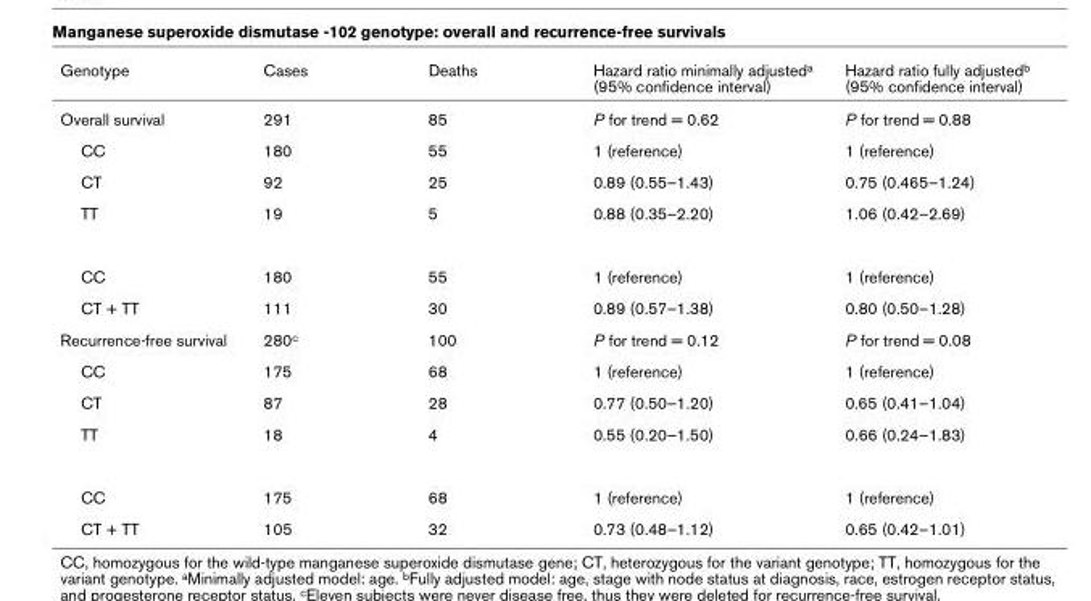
<table><thead><tr><td>Genotype</td><td>Cases</td><td>Deaths</td><td>Hazard ratio minimally adjusteda (95% confidence interval)</td><td>Hazard ratio fully adjustedb (95% confidence interval)</td></tr></thead><tbody><tr><td>Overall survival</td><td>291</td><td>85</td><td>P for trend = 0.62</td><td>P for trend = 0.88</td></tr><tr><td>CC</td><td>180</td><td>55</td><td>1 (reference)</td><td>1 (reference)</td></tr><tr><td>CT</td><td>92</td><td>25</td><td>0.89 (0.55–1.43)</td><td>0.75 (0.465–1.24)</td></tr><tr><td>TT</td><td>19</td><td>5</td><td>0.88 (0.35–2.20)</td><td>1.06 (0.42–2.69)</td></tr><tr><td>CC</td><td>180</td><td>55</td><td>1 (reference)</td><td>1 (reference)</td></tr><tr><td>CT + TT</td><td>111</td><td>30</td><td>0.89 (0.57–1.38)</td><td>0.80 (0.50–1.28)</td></tr><tr><td>Recurrence-free survival</td><td>280c</td><td>100</td><td>P for trend = 0.12</td><td>P for trend = 0.08</td></tr><tr><td>CC</td><td>175</td><td>68</td><td>1 (reference)</td><td>1 (reference)</td></tr><tr><td>CT</td><td>87</td><td>28</td><td>0.77 (0.50–1.20)</td><td>0.65 (0.41–1.04)</td></tr><tr><td>TT</td><td>18</td><td>4</td><td>0.55 (0.20–1.50)</td><td>0.66 (0.24–1.83)</td></tr><tr><td>CC</td><td>175</td><td>68</td><td>1 (reference)</td><td>1 (reference)</td></tr><tr><td>CT + TT</td><td>105</td><td>32</td><td>0.73 (0.48–1.12)</td><td>0.65 (0.42–1.01)</td></tr></tbody></table>